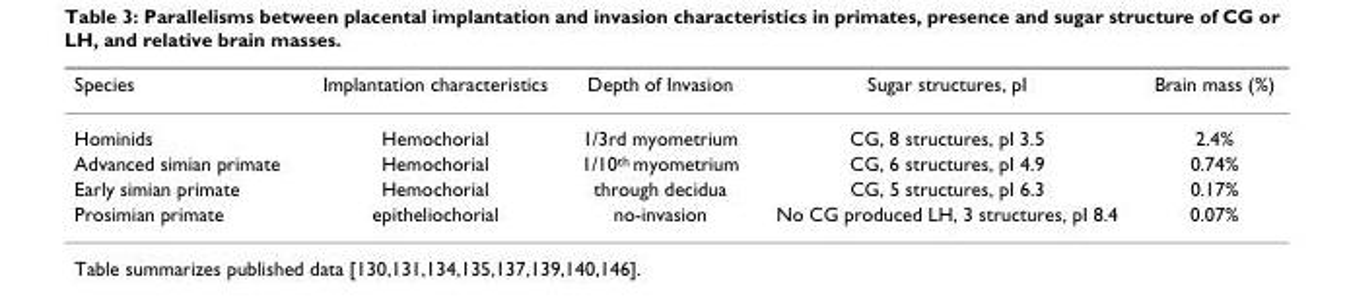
<table><thead><tr><td>Species</td><td>Implantation characteristics</td><td>Depth of Invasion</td><td>Sugar structures, pI</td><td>Brain mass (%)</td></tr></thead><tbody><tr><td>Hominids</td><td>Hemochorial</td><td>1/3rd myometrium</td><td>CG, 8 structures, pI 3.5</td><td>2.4%</td></tr><tr><td>Advanced simian primate</td><td>Hemochorial</td><td>1/10<sup>th</sup> myometrium</td><td>CG, 6 structures, pI 4.9</td><td>0.74%</td></tr><tr><td>Early simian primate</td><td>Hemochorial</td><td>through decidua</td><td>CG, 5 structures, pI 6.3</td><td>0.17%</td></tr><tr><td>Prosimian primate</td><td>epitheliochorial</td><td>no-invasion</td><td>No CG produced LH, 3 structures, pI 8.4</td><td>0.07%</td></tr></tbody></table>